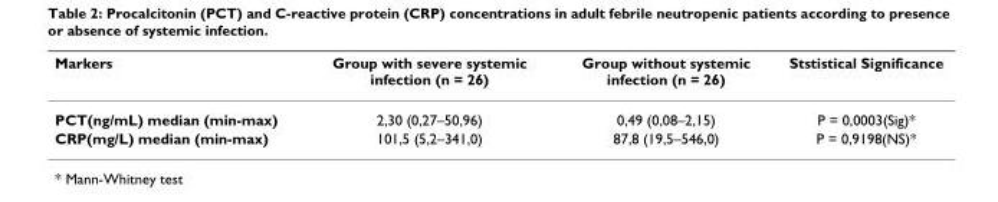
<table><thead><tr><td>Markers</td><td>Group with severe systemic infection (n = 26)</td><td>Group without systemic infection (n = 26)</td><td>Ststistical Significance</td></tr></thead><tbody><tr><td>PCT(ng/mL) median (min-max)</td><td>2,30 (0,27–50,96)</td><td>0,49 (0,08–2,15)</td><td>P = 0,0003(Sig)*</td></tr><tr><td>CRP(mg/L) median (min-max)</td><td>101,5 (5,2–341,0)</td><td>87,8 (19,5–546,0)</td><td>P = 0,9198(NS)*</td></tr></tbody></table>